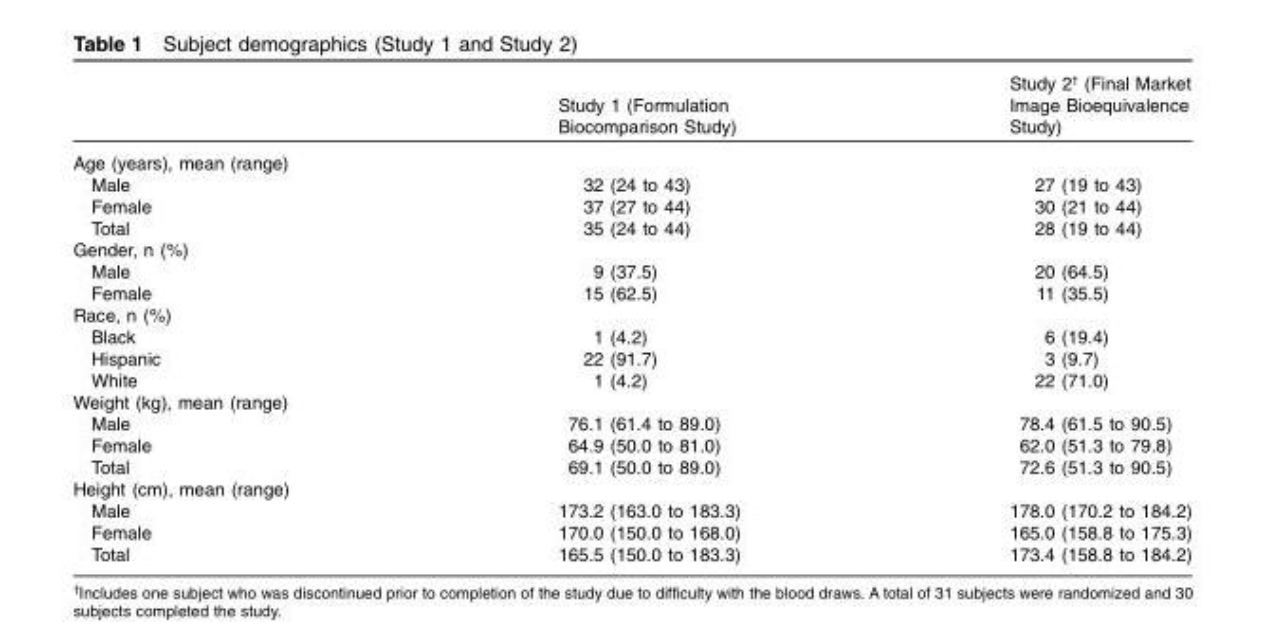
<table><thead><tr><td></td><td>Study 1 (Formulation Biocomparison Study)</td><td>Study 2† (Final Market Image Bioequivalence Study)</td></tr></thead><tbody><tr><td colspan="3">Age (years), mean (range)</td></tr><tr><td>Male</td><td>32 (24 to 43)</td><td>27 (19 to 43)</td></tr><tr><td>Female</td><td>37 (27 to 44)</td><td>30 (21 to 44)</td></tr><tr><td>Total</td><td>35 (24 to 44)</td><td>28 (19 to 44)</td></tr><tr><td colspan="3">Gender, n (%)</td></tr><tr><td>Male</td><td>9 (37.5)</td><td>20 (64.5)</td></tr><tr><td>Female</td><td>15 (62.5)</td><td>11 (35.5)</td></tr><tr><td colspan="3">Race, n (%)</td></tr><tr><td>Black</td><td>1 (4.2)</td><td>6 (19.4)</td></tr><tr><td>Hispanic</td><td>22 (91.7)</td><td>3 (9.7)</td></tr><tr><td>White</td><td>1 (4.2)</td><td>22 (71.0)</td></tr><tr><td colspan="3">Weight (kg), mean (range)</td></tr><tr><td>Male</td><td>76.1 (61.4 to 89.0)</td><td>78.4 (61.5 to 90.5)</td></tr><tr><td>Female</td><td>64.9 (50.0 to 81.0)</td><td>62.0 (51.3 to 79.8)</td></tr><tr><td>Total</td><td>69.1 (50.0 to 89.0)</td><td>72.6 (51.3 to 90.5)</td></tr><tr><td colspan="3">Height (cm), mean (range)</td></tr><tr><td>Male</td><td>173.2 (163.0 to 183.3)</td><td>178.0 (170.2 to 184.2)</td></tr><tr><td>Female</td><td>170.0 (150.0 to 168.0)</td><td>165.0 (158.8 to 175.3)</td></tr><tr><td>Total</td><td>165.5 (150.0 to 183.3)</td><td>173.4 (158.8 to 184.2)</td></tr></tbody></table>